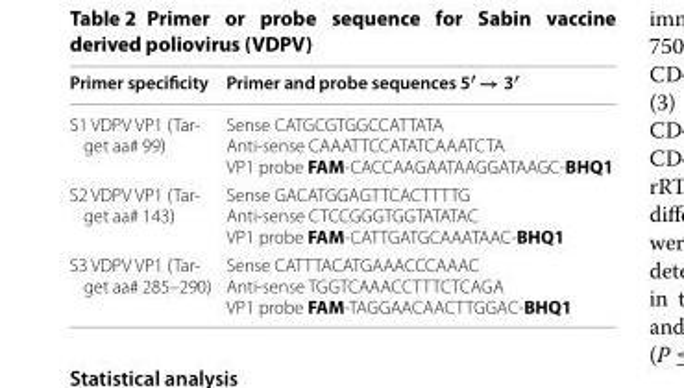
<table><thead><tr><td>Primer specificity</td><td>Primer and probe sequences 5′ → 3′</td></tr></thead><tbody><tr><td>S1 VDPV VP1 (Tar- get aa# 99)</td><td>Sense CATGCGTGGCCATTATA Anti-sense CAAATTCCATATCAAATCTA VP1 probe FAM-CACCAAGAATAAGGATAAGC-BHQ1</td></tr><tr><td>S2 VDPV VP1 (Tar- get aa# 143)</td><td>Sense GACATGGAGTTCACTTTTG Anti-sense CTCCGGGTGGTATATAC VP1 probe FAM-CATTGATGCAAATAAC-BHQ1</td></tr><tr><td>S3 VDPV VP1 (Tar- get aa# 285–290)</td><td>Sense CATTTACATGAAACCCAAAC Anti-sense TGGTCAAACCTTTCTCAGA VP1 probe FAM-TAGGAACAACTTGGAC-BHQ1</td></tr></tbody></table>